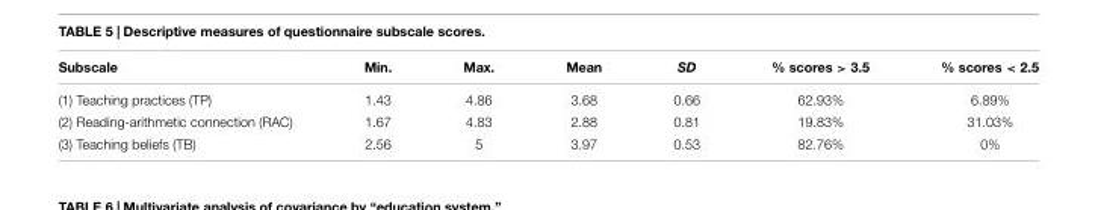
<table><thead><tr><td>Subscale</td><td>Min.</td><td>Max.</td><td>Mean</td><td>SD</td><td>% scores &gt; 3.5</td><td>% scores &lt; 2.5</td></tr></thead><tbody><tr><td>(1) Teaching practices (TP)</td><td>1.43</td><td>4.86</td><td>3.68</td><td>0.66</td><td>62.93%</td><td>6.89%</td></tr><tr><td>(2) Reading-arithmetic connection (RAC)</td><td>1.67</td><td>4.83</td><td>2.88</td><td>0.81</td><td>19.83%</td><td>31.03%</td></tr><tr><td>(3) Teaching beliefs (TB)</td><td>2.56</td><td>5</td><td>3.97</td><td>0.53</td><td>82.76%</td><td>0%</td></tr></tbody></table>